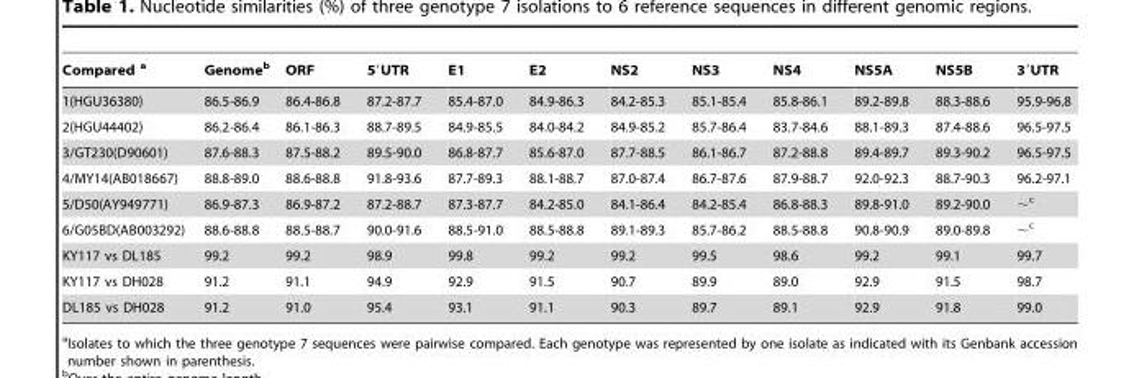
<table><thead><tr><td>Compared a</td><td>Genome<sup>b</sup></td><td>ORF</td><td>5′UTR</td><td>E1</td><td>E2</td><td>NS2</td><td>NS3</td><td>NS4</td><td>NS5A</td><td>NS5B</td><td>3′UTR</td></tr></thead><tbody><tr><td>1(HGU36380)</td><td>86.5-86.9</td><td>86.4-86.8</td><td>87.2-87.7</td><td>85.4-87.0</td><td>84.9-86.3</td><td>84.2-85.3</td><td>85.1-85.4</td><td>85.8-86.1</td><td>89.2-89.8</td><td>88.3-88.6</td><td>95.9-96.8</td></tr><tr><td>2(HGU44402)</td><td>86.2-86.4</td><td>86.1-86.3</td><td>88.7-89.5</td><td>84.9-85.5</td><td>84.0-84.2</td><td>84.9-85.2</td><td>85.7-86.4</td><td>83.7-84.6</td><td>88.1-89.3</td><td>87.4-88.6</td><td>96.5-97.5</td></tr><tr><td>3/GT230(D90601)</td><td>87.6-88.3</td><td>87.5-88.2</td><td>89.5-90.0</td><td>86.8-87.7</td><td>85.6-87.0</td><td>87.7-88.5</td><td>86.1-86.7</td><td>87.2-88.8</td><td>89.4-89.7</td><td>89.3-90.2</td><td>96.5-97.5</td></tr><tr><td>4/MY14(AB018667)</td><td>88.8-89.0</td><td>88.6-88.8</td><td>91.8-93.6</td><td>87.7-89.3</td><td>88.1-88.7</td><td>87.0-87.4</td><td>86.7-87.6</td><td>87.9-88.7</td><td>92.0-92.3</td><td>88.7-90.3</td><td>96.2-97.1</td></tr><tr><td>5/D50(AY949771)</td><td>86.9-87.3</td><td>86.9-87.2</td><td>87.2-88.7</td><td>87.3-87.7</td><td>84.2-85.0</td><td>84.1-86.4</td><td>84.2-85.4</td><td>86.8-88.3</td><td>89.8-91.0</td><td>89.2-90.0</td><td>∼<sup>c</sup></td></tr><tr><td>6/G05BD(AB003292)</td><td>88.6-88.8</td><td>88.5-88.7</td><td>90.0-91.6</td><td>88.5-91.0</td><td>88.5-88.8</td><td>89.1-89.3</td><td>85.7-86.2</td><td>88.5-88.8</td><td>90.8-90.9</td><td>89.0-89.8</td><td>∼<sup>c</sup></td></tr><tr><td>KY117 vs DL185</td><td>99.2</td><td>99.2</td><td>98.9</td><td>99.8</td><td>99.2</td><td>99.2</td><td>99.5</td><td>98.6</td><td>99.2</td><td>99.1</td><td>99.7</td></tr><tr><td>KY117 vs DH028</td><td>91.2</td><td>91.1</td><td>94.9</td><td>92.9</td><td>91.5</td><td>90.7</td><td>89.9</td><td>89.0</td><td>92.9</td><td>91.5</td><td>98.7</td></tr><tr><td>DL185 vs DH028</td><td>91.2</td><td>91.0</td><td>95.4</td><td>93.1</td><td>91.1</td><td>90.3</td><td>89.7</td><td>89.1</td><td>92.9</td><td>91.8</td><td>99.0</td></tr></tbody></table>